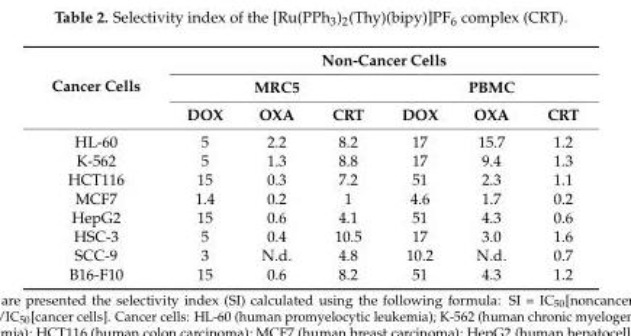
<table><thead><tr><td rowspan="3">Cancer Cells</td><td colspan="6">Non-Cancer Cells</td></tr><tr><td colspan="3">MRC5</td><td colspan="3">PBMC</td></tr><tr><td>DOX</td><td>OXA</td><td>CRT</td><td>DOX</td><td>OXA</td><td>CRT</td></tr></thead><tbody><tr><td>HL-60</td><td>5</td><td>2.2</td><td>8.2</td><td>17</td><td>15.7</td><td>1.2</td></tr><tr><td>K-562</td><td>5</td><td>1.3</td><td>8.8</td><td>17</td><td>9.4</td><td>1.3</td></tr><tr><td>HCT116</td><td>15</td><td>0.3</td><td>7.2</td><td>51</td><td>2.3</td><td>1.1</td></tr><tr><td>MCF7</td><td>1.4</td><td>0.2</td><td>1</td><td>4.6</td><td>1.7</td><td>0.2</td></tr><tr><td>HepG2</td><td>15</td><td>0.6</td><td>4.1</td><td>51</td><td>4.3</td><td>0.6</td></tr><tr><td>HSC-3</td><td>5</td><td>0.4</td><td>10.5</td><td>17</td><td>3.0</td><td>1.6</td></tr><tr><td>SCC-9</td><td>3</td><td>N.d.</td><td>4.8</td><td>10.2</td><td>N.d.</td><td>0.7</td></tr><tr><td>B16-F10</td><td>15</td><td>0.6</td><td>8.2</td><td>51</td><td>4.3</td><td>1.2</td></tr></tbody></table>